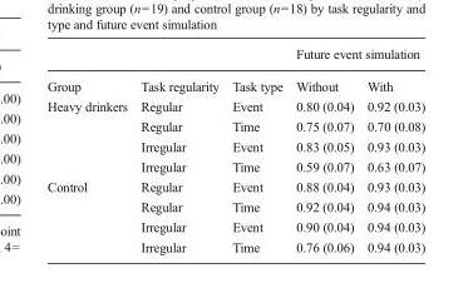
<table><thead><tr><td rowspan="2">Group</td><td rowspan="2">Task regularity</td><td rowspan="2">Task type</td><td colspan="2">Future event simulation</td></tr><tr><td>Without</td><td>With</td></tr></thead><tbody><tr><td rowspan="4">Heavy drinkers</td><td>Regular</td><td>Event</td><td>0.80 (0.04)</td><td>0.92 (0.03)</td></tr><tr><td>Regular</td><td>Time</td><td>0.75 (0.07)</td><td>0.70 (0.08)</td></tr><tr><td>Irregular</td><td>Event</td><td>0.83 (0.05)</td><td>0.93 (0.03)</td></tr><tr><td>Irregular</td><td>Time</td><td>0.59 (0.07)</td><td>0.63 (0.07)</td></tr><tr><td rowspan="4">Control</td><td>Regular</td><td>Event</td><td>0.88 (0.04)</td><td>0.93 (0.03)</td></tr><tr><td>Regular</td><td>Time</td><td>0.92 (0.04)</td><td>0.94 (0.03)</td></tr><tr><td>Irregular</td><td>Event</td><td>0.90 (0.04)</td><td>0.94 (0.03)</td></tr><tr><td>Irregular</td><td>Time</td><td>0.76 (0.06)</td><td>0.94 (0.03)</td></tr></tbody></table>